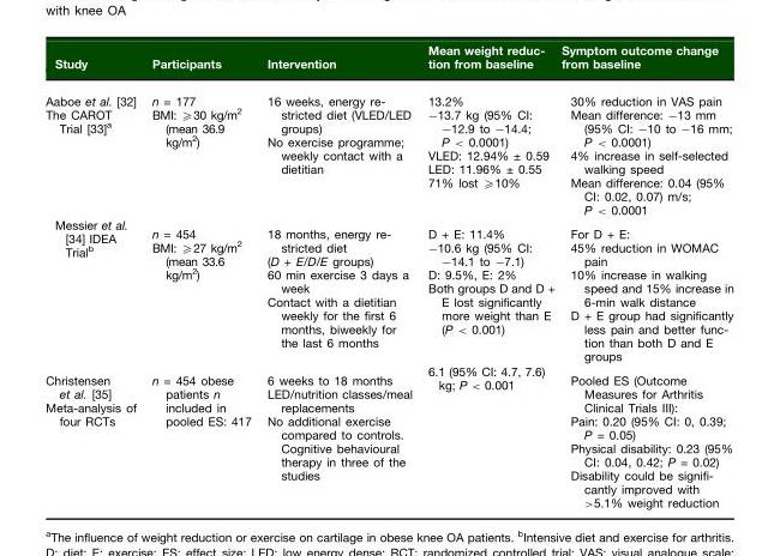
<table><thead><tr><td>Study</td><td>Participants</td><td>Intervention</td><td>Mean weight reduc- tion from baseline</td><td>Symptom outcome change from baseline</td></tr></thead><tbody><tr><td>Aaboe et al. [32] The CAROT Trial [33]<sup>a</sup></td><td>n = 177 BMI: ≥30 kg/m<sup>2</sup> (mean 36.9 kg/m<sup>2</sup>)</td><td>16 weeks, energy re- stricted diet (VLED/LED groups) No exercise programme; weekly contact with a dietitian</td><td>13.2% −13.7 kg (95% CI: −12.9 to −14.4; P &lt; 0.0001) VLED: 12.94% ± 0.59 LED: 11.96% ± 0.55 71% lost ≥10%</td><td>30% reduction in VAS pain Mean difference: −13 mm (95% CI: −10 to −16 mm; P &lt; 0.0001) 4% increase in self-selected walking speed Mean difference: 0.04 (95% CI: 0.02, 0.07) m/s; P &lt; 0.0001</td></tr><tr><td>Messier et al. [34] IDEA Trial<sup>b</sup></td><td>n = 454 BMI: ≥27 kg/m<sup>2</sup> (mean 33.6 kg/m<sup>2</sup>)</td><td>18 months, energy re- stricted diet (D + E/D/E groups) 60 min exercise 3 days a week Contact with a dietitian weekly for the first 6 months, biweekly for the last 6 months</td><td>D + E: 11.4% −10.6 kg (95% CI: −14.1 to −7.1) D: 9.5%, E: 2% Both groups D and D + E lost significantly more weight than E (P &lt; 0.001)</td><td>For D + E: 45% reduction in WOMAC pain 10% increase in walking speed and 15% increase in 6-min walk distance D + E group had significantly less pain and better func- tion than both D and E groups</td></tr><tr><td>Christensen et al. [35] Meta-analysis of four RCTs</td><td>n = 454 obese patients n included in pooled ES: 417</td><td>6 weeks to 18 months LED/nutrition classes/meal replacements No additional exercise compared to controls. Cognitive behavioural therapy in three of the studies</td><td>6.1 (95% CI: 4.7, 7.6) kg; P &lt; 0.001</td><td>Pooled ES (Outcome Measures for Arthritis Clinical Trials III): Pain: 0.20 (95% CI: 0, 0.39; P = 0.05) Physical disability: 0.23 (95% CI: 0.04, 0.42; P = 0.02) Disability could be signifi- cantly improved with &gt;5.1% weight reduction</td></tr></tbody></table>